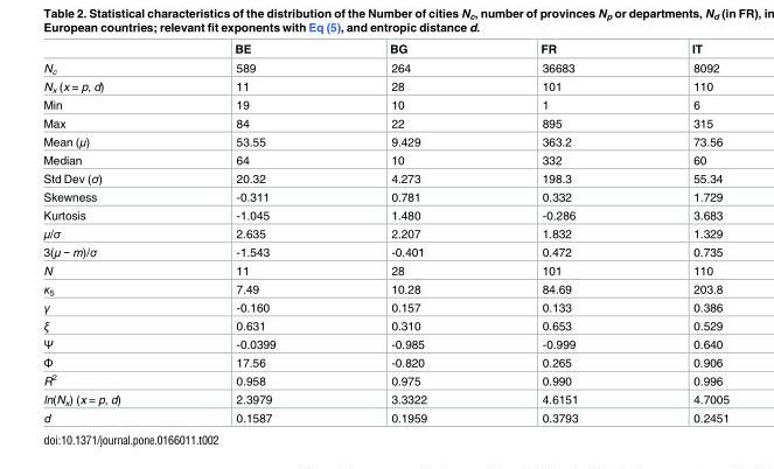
<table><thead><tr><td></td><td>BE</td><td>BG</td><td>FR</td><td>IT</td></tr></thead><tbody><tr><td>N<sub>c</sub></td><td>589</td><td>264</td><td>36683</td><td>8092</td></tr><tr><td>N<sub>x</sub> (x = p, d)</td><td>11</td><td>28</td><td>101</td><td>110</td></tr><tr><td>Min</td><td>19</td><td>10</td><td>1</td><td>6</td></tr><tr><td>Max</td><td>84</td><td>22</td><td>895</td><td>315</td></tr><tr><td>Mean (μ)</td><td>53.55</td><td>9.429</td><td>363.2</td><td>73.56</td></tr><tr><td>Median</td><td>64</td><td>10</td><td>332</td><td>60</td></tr><tr><td>Std Dev (σ)</td><td>20.32</td><td>4.273</td><td>198.3</td><td>55.34</td></tr><tr><td>Skewness</td><td>-0.311</td><td>0.781</td><td>0.332</td><td>1.729</td></tr><tr><td>Kurtosis</td><td>-1.045</td><td>1.480</td><td>-0.286</td><td>3.683</td></tr><tr><td>μ/σ</td><td>2.635</td><td>2.207</td><td>1.832</td><td>1.329</td></tr><tr><td>3(μ − m)/σ</td><td>-1.543</td><td>-0.401</td><td>0.472</td><td>0.735</td></tr><tr><td>N</td><td>11</td><td>28</td><td>101</td><td>110</td></tr><tr><td>κ<sub>5</sub></td><td>7.49</td><td>10.28</td><td>84.69</td><td>203.8</td></tr><tr><td>γ</td><td>-0.160</td><td>0.157</td><td>0.133</td><td>0.386</td></tr><tr><td>ξ</td><td>0.631</td><td>0.310</td><td>0.653</td><td>0.529</td></tr><tr><td>Ψ</td><td>-0.0399</td><td>-0.985</td><td>-0.999</td><td>0.640</td></tr><tr><td>Φ</td><td>17.56</td><td>-0.820</td><td>0.265</td><td>0.906</td></tr><tr><td>R<sup>2</sup></td><td>0.958</td><td>0.975</td><td>0.990</td><td>0.996</td></tr><tr><td>ln(N<sub>x</sub>) (x = p, d)</td><td>2.3979</td><td>3.3322</td><td>4.6151</td><td>4.7005</td></tr><tr><td>d</td><td>0.1587</td><td>0.1959</td><td>0.3793</td><td>0.2451</td></tr></tbody></table>